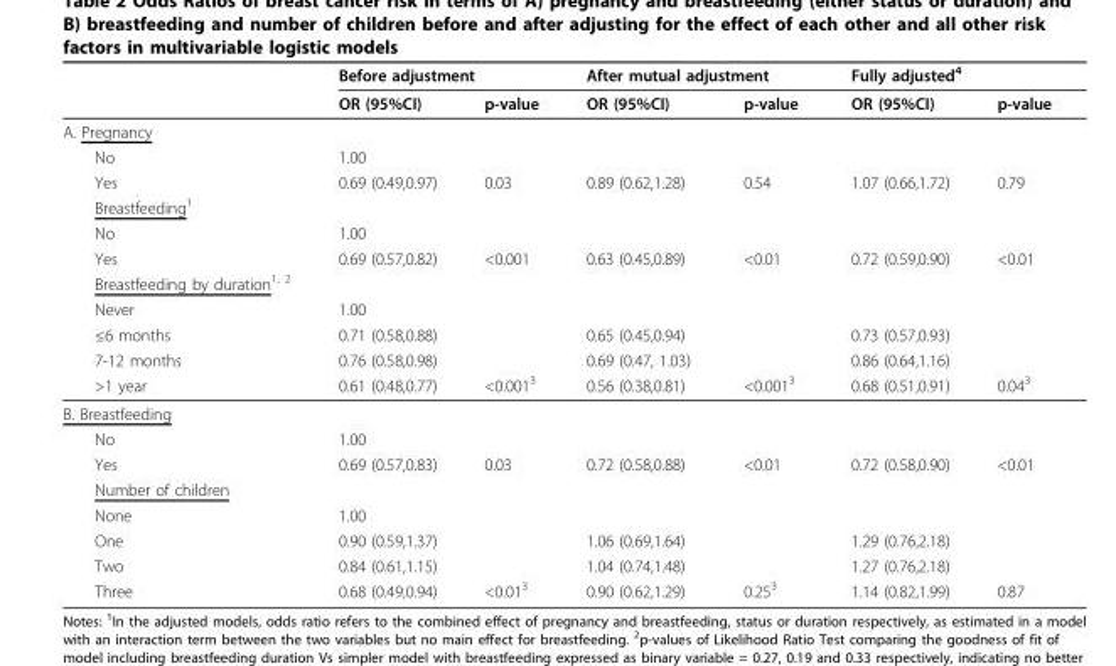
<table><thead><tr><td rowspan="2"></td><td colspan="2">Before adjustment</td><td colspan="2">After mutual adjustment</td><td colspan="2">Fully adjusted<sup>4</sup></td></tr><tr><td>OR (95%CI)</td><td>p-value</td><td>OR (95%CI)</td><td>p-value</td><td>OR (95%CI)</td><td>p-value</td></tr></thead><tbody><tr><td colspan="7">A. Pregnancy</td></tr><tr><td>No</td><td>1.00</td><td></td><td></td><td></td><td></td><td></td></tr><tr><td>Yes</td><td>0.69 (0.49,0.97)</td><td>0.03</td><td>0.89 (0.62,1.28)</td><td>0.54</td><td>1.07 (0.66,1.72)</td><td>0.79</td></tr><tr><td colspan="7">Breastfeeding<sup>1</sup></td></tr><tr><td>No</td><td>1.00</td><td></td><td></td><td></td><td></td><td></td></tr><tr><td>Yes</td><td>0.69 (0.57,0.82)</td><td>&lt;0.001</td><td>0.63 (0.45,0.89)</td><td>&lt;0.01</td><td>0.72 (0.59,0.90)</td><td>&lt;0.01</td></tr><tr><td colspan="7">Breastfeeding by duration<sup>1, 2</sup></td></tr><tr><td>Never</td><td>1.00</td><td></td><td></td><td></td><td></td><td></td></tr><tr><td>≤6 months</td><td>0.71 (0.58,0.88)</td><td></td><td>0.65 (0.45,0.94)</td><td></td><td>0.73 (0.57,0.93)</td><td></td></tr><tr><td>7-12 months</td><td>0.76 (0.58,0.98)</td><td></td><td>0.69 (0.47, 1.03)</td><td></td><td>0.86 (0.64,1.16)</td><td></td></tr><tr><td>&gt;1 year</td><td>0.61 (0.48,0.77)</td><td>&lt;0.001<sup>3</sup></td><td>0.56 (0.38,0.81)</td><td>&lt;0.001<sup>3</sup></td><td>0.68 (0.51,0.91)</td><td>0.04<sup>3</sup></td></tr><tr><td colspan="7">B. Breastfeeding</td></tr><tr><td>No</td><td>1.00</td><td></td><td></td><td></td><td></td><td></td></tr><tr><td>Yes</td><td>0.69 (0.57,0.83)</td><td>0.03</td><td>0.72 (0.58,0.88)</td><td>&lt;0.01</td><td>0.72 (0.58,0.90)</td><td>&lt;0.01</td></tr><tr><td colspan="7">Number of children</td></tr><tr><td>None</td><td>1.00</td><td></td><td></td><td></td><td></td><td></td></tr><tr><td>One</td><td>0.90 (0.59,1.37)</td><td></td><td>1.06 (0.69,1.64)</td><td></td><td>1.29 (0.76,2.18)</td><td></td></tr><tr><td>Two</td><td>0.84 (0.61,1.15)</td><td></td><td>1.04 (0.74,1.48)</td><td></td><td>1.27 (0.76,2.18)</td><td></td></tr><tr><td>Three</td><td>0.68 (0.49,0.94)</td><td>&lt;0.01<sup>3</sup></td><td>0.90 (0.62,1.29)</td><td>0.25<sup>3</sup></td><td>1.14 (0.82,1.99)</td><td>0.87</td></tr></tbody></table>